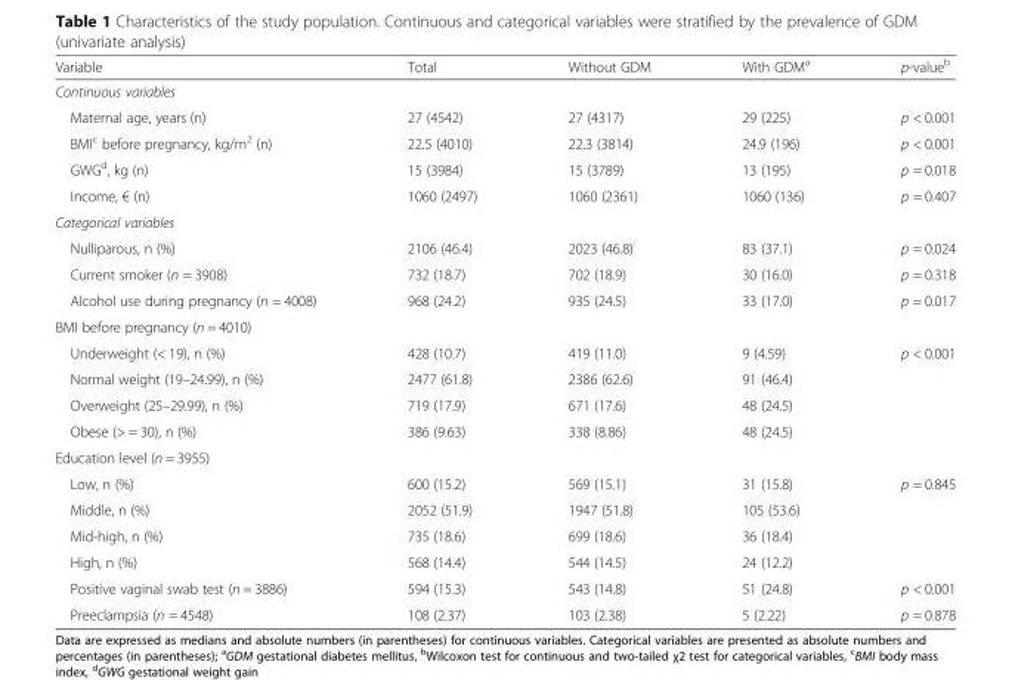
<table><thead><tr><td>Variable</td><td>Total</td><td>Without GDM</td><td>With GDM<sup>a</sup></td><td>p-value<sup>b</sup></td></tr></thead><tbody><tr><td colspan="5">Continuous variables</td></tr><tr><td>Maternal age, years (n)</td><td>27 (4542)</td><td>27 (4317)</td><td>29 (225)</td><td>p &lt; 0.001</td></tr><tr><td>BMI<sup>c</sup> before pregnancy, kg/m<sup>2</sup> (n)</td><td>22.5 (4010)</td><td>22.3 (3814)</td><td>24.9 (196)</td><td>p &lt; 0.001</td></tr><tr><td>GWG<sup>d</sup>, kg (n)</td><td>15 (3984)</td><td>15 (3789)</td><td>13 (195)</td><td>p = 0.018</td></tr><tr><td>Income, € (n)</td><td>1060 (2497)</td><td>1060 (2361)</td><td>1060 (136)</td><td>p = 0.407</td></tr><tr><td colspan="5">Categorical variables</td></tr><tr><td>Nulliparous, n (%)</td><td>2106 (46.4)</td><td>2023 (46.8)</td><td>83 (37.1)</td><td>p = 0.024</td></tr><tr><td>Current smoker (n = 3908)</td><td>732 (18.7)</td><td>702 (18.9)</td><td>30 (16.0)</td><td>p = 0.318</td></tr><tr><td>Alcohol use during pregnancy (n = 4008)</td><td>968 (24.2)</td><td>935 (24.5)</td><td>33 (17.0)</td><td>p = 0.017</td></tr><tr><td colspan="5">BMI before pregnancy (n = 4010)</td></tr><tr><td>Underweight (&lt; 19), n (%)</td><td>428 (10.7)</td><td>419 (11.0)</td><td>9 (4.59)</td><td rowspan="4">p &lt; 0.001</td></tr><tr><td>Normal weight (19–24.99), n (%)</td><td>2477 (61.8)</td><td>2386 (62.6)</td><td>91 (46.4)</td></tr><tr><td>Overweight (25–29.99), n (%)</td><td>719 (17.9)</td><td>671 (17.6)</td><td>48 (24.5)</td></tr><tr><td>Obese (&gt; = 30), n (%)</td><td>386 (9.63)</td><td>338 (8.86)</td><td>48 (24.5)</td></tr><tr><td colspan="5">Education level (n = 3955)</td></tr><tr><td>Low, n (%)</td><td>600 (15.2)</td><td>569 (15.1)</td><td>31 (15.8)</td><td rowspan="4">p = 0.845</td></tr><tr><td>Middle, n (%)</td><td>2052 (51.9)</td><td>1947 (51.8)</td><td>105 (53.6)</td></tr><tr><td>Mid-high, n (%)</td><td>735 (18.6)</td><td>699 (18.6)</td><td>36 (18.4)</td></tr><tr><td>High, n (%)</td><td>568 (14.4)</td><td>544 (14.5)</td><td>24 (12.2)</td></tr><tr><td>Positive vaginal swab test (n = 3886)</td><td>594 (15.3)</td><td>543 (14.8)</td><td>51 (24.8)</td><td>p &lt; 0.001</td></tr><tr><td>Preeclampsia (n = 4548)</td><td>108 (2.37)</td><td>103 (2.38)</td><td>5 (2.22)</td><td>p = 0.878</td></tr></tbody></table>